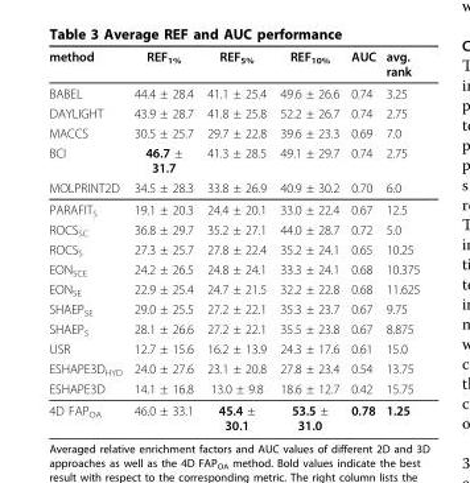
<table><thead><tr><td>method</td><td>REF<sub>1%</sub></td><td>REF<sub>5%</sub></td><td>REF<sub>10%</sub></td><td>AUC</td><td>avg. rank</td></tr></thead><tbody><tr><td>BABEL</td><td>44.4 ± 28.4</td><td>41.1 ± 25.4</td><td>49.6 ± 26.6</td><td>0.74</td><td>3.25</td></tr><tr><td>DAYLIGHT</td><td>43.9 ± 28.7</td><td>41.8 ± 25.8</td><td>52.2 ± 26.7</td><td>0.74</td><td>2.75</td></tr><tr><td>MACCS</td><td>30.5 ± 25.7</td><td>29.7 ± 22.8</td><td>39.6 ± 23.3</td><td>0.69</td><td>7.0</td></tr><tr><td>BCI</td><td>46.7 ± 31.7</td><td>41.3 ± 28.5</td><td>49.1 ± 29.7</td><td>0.74</td><td>2.75</td></tr><tr><td>MOLPRINT2D</td><td>34.5 ± 28.3</td><td>33.8 ± 26.9</td><td>40.9 ± 30.2</td><td>0.70</td><td>6.0</td></tr><tr><td>PARAFIT<sub>S</sub></td><td>19.1 ± 20.3</td><td>24.4 ± 20.1</td><td>33.0 ± 22.4</td><td>0.67</td><td>12.5</td></tr><tr><td>ROCS<sub>SC</sub></td><td>36.8 ± 29.7</td><td>35.2 ± 27.1</td><td>44.0 ± 28.7</td><td>0.72</td><td>5.0</td></tr><tr><td>ROCS<sub>S</sub></td><td>27.3 ± 25.7</td><td>27.8 ± 22.4</td><td>35.2 ± 24.1</td><td>0.65</td><td>10.25</td></tr><tr><td>EON<sub>SCE</sub></td><td>24.2 ± 26.5</td><td>24.8 ± 24.1</td><td>33.3 ± 24.1</td><td>0.68</td><td>10.375</td></tr><tr><td>EON<sub>SE</sub></td><td>22.9 ± 25.4</td><td>24.7 ± 21.5</td><td>32.2 ± 22.8</td><td>0.68</td><td>11.625</td></tr><tr><td>SHAEP<sub>SE</sub></td><td>29.0 ± 25.5</td><td>27.2 ± 22.1</td><td>35.3 ± 23.7</td><td>0.67</td><td>9.75</td></tr><tr><td>SHAEP<sub>S</sub></td><td>28.1 ± 26.6</td><td>27.2 ± 22.1</td><td>35.5 ± 23.8</td><td>0.67</td><td>8.875</td></tr><tr><td>USR</td><td>12.7 ± 15.6</td><td>16.2 ± 13.9</td><td>24.3 ± 17.6</td><td>0.61</td><td>15.0</td></tr><tr><td>ESHAPE3D<sub>HYD</sub></td><td>24.0 ± 27.6</td><td>23.1 ± 20.8</td><td>27.8 ± 23.4</td><td>0.54</td><td>13.75</td></tr><tr><td>ESHAPE3D</td><td>14.1 ± 16.8</td><td>13.0 ± 9.8</td><td>18.6 ± 12.7</td><td>0.42</td><td>15.75</td></tr><tr><td>4D FAP<sub>OA</sub></td><td>46.0 ± 33.1</td><td>45.4 ± 30.1</td><td>53.5 ± 31.0</td><td>0.78</td><td>1.25</td></tr></tbody></table>